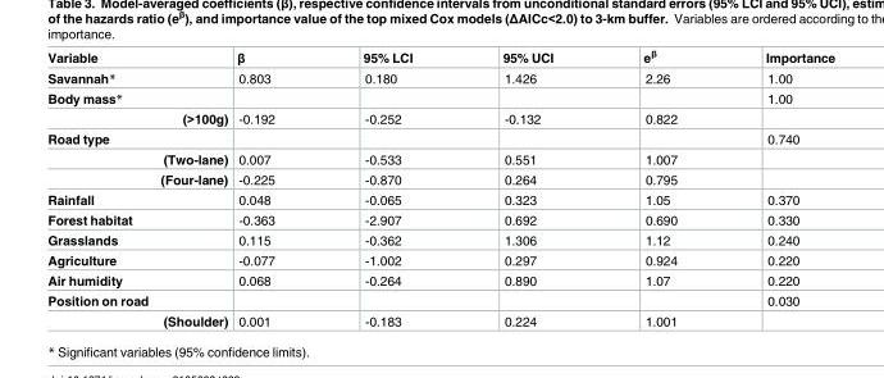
<table><thead><tr><td>Variable</td><td>β</td><td>95% LCI</td><td>95% UCI</td><td>e<sup>β</sup></td><td>Importance</td></tr></thead><tbody><tr><td>Savannah*</td><td>0.803</td><td>0.180</td><td>1.426</td><td>2.26</td><td>1.00</td></tr><tr><td>Body mass*</td><td></td><td></td><td></td><td></td><td>1.00</td></tr><tr><td>(&gt;100g)</td><td>-0.192</td><td>-0.252</td><td>-0.132</td><td>0.822</td><td></td></tr><tr><td>Road type</td><td></td><td></td><td></td><td></td><td>0.740</td></tr><tr><td>(Two-lane)</td><td>0.007</td><td>-0.533</td><td>0.551</td><td>1.007</td><td></td></tr><tr><td>(Four-lane)</td><td>-0.225</td><td>-0.870</td><td>0.264</td><td>0.795</td><td></td></tr><tr><td>Rainfall</td><td>0.048</td><td>-0.065</td><td>0.323</td><td>1.05</td><td>0.370</td></tr><tr><td>Forest habitat</td><td>-0.363</td><td>-2.907</td><td>0.692</td><td>0.690</td><td>0.330</td></tr><tr><td>Grasslands</td><td>0.115</td><td>-0.362</td><td>1.306</td><td>1.12</td><td>0.240</td></tr><tr><td>Agriculture</td><td>-0.077</td><td>-1.002</td><td>0.297</td><td>0.924</td><td>0.220</td></tr><tr><td>Air humidity</td><td>0.068</td><td>-0.264</td><td>0.890</td><td>1.07</td><td>0.220</td></tr><tr><td>Position on road</td><td></td><td></td><td></td><td></td><td>0.030</td></tr><tr><td>(Shoulder)</td><td>0.001</td><td>-0.183</td><td>0.224</td><td>1.001</td><td></td></tr></tbody></table>